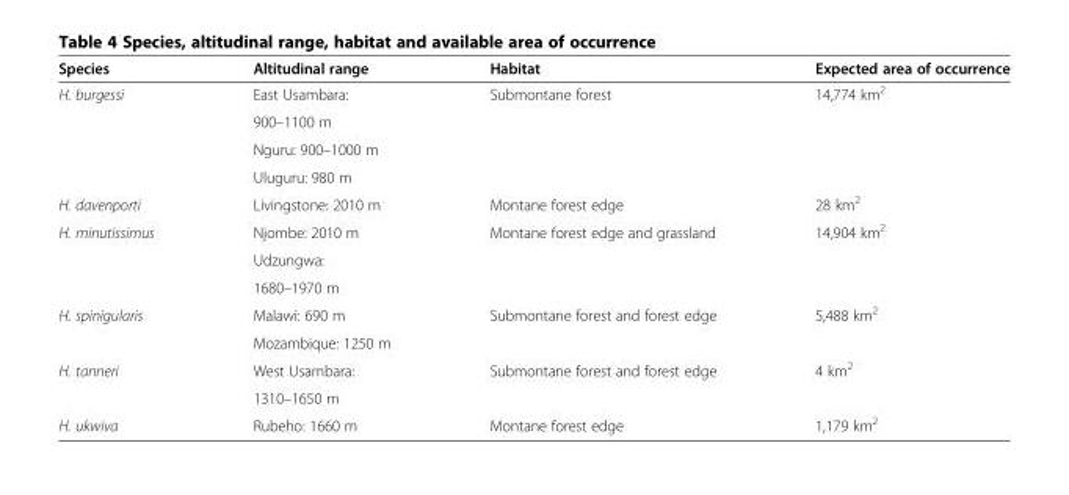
<table><thead><tr><td>Species</td><td>Altitudinal range</td><td>Habitat</td><td>Expected area of occurrence</td></tr></thead><tbody><tr><td rowspan="4">H. burgessi</td><td>East Usambara:</td><td rowspan="4">Submontane forest</td><td rowspan="4">14,774 km<sup>2</sup></td></tr><tr><td>900–1100 m</td></tr><tr><td>Nguru: 900–1000 m</td></tr><tr><td>Uluguru: 980 m</td></tr><tr><td>H. davenporti</td><td>Livingstone: 2010 m</td><td>Montane forest edge</td><td>28 km<sup>2</sup></td></tr><tr><td rowspan="3">H. minutissimus</td><td>Njombe: 2010 m</td><td rowspan="3">Montane forest edge and grassland</td><td rowspan="3">14,904 km<sup>2</sup></td></tr><tr><td>Udzungwa:</td></tr><tr><td>1680–1970 m</td></tr><tr><td rowspan="2">H. spinigularis</td><td>Malawi: 690 m</td><td rowspan="2">Submontane forest and forest edge</td><td rowspan="2">5,488 km<sup>2</sup></td></tr><tr><td>Mozambique: 1250 m</td></tr><tr><td rowspan="2">H. tanneri</td><td>West Usambara:</td><td rowspan="2">Submontane forest and forest edge</td><td rowspan="2">4 km<sup>2</sup></td></tr><tr><td>1310–1650 m</td></tr><tr><td>H. ukwiva</td><td>Rubeho: 1660 m</td><td>Montane forest edge</td><td>1,179 km<sup>2</sup></td></tr></tbody></table>